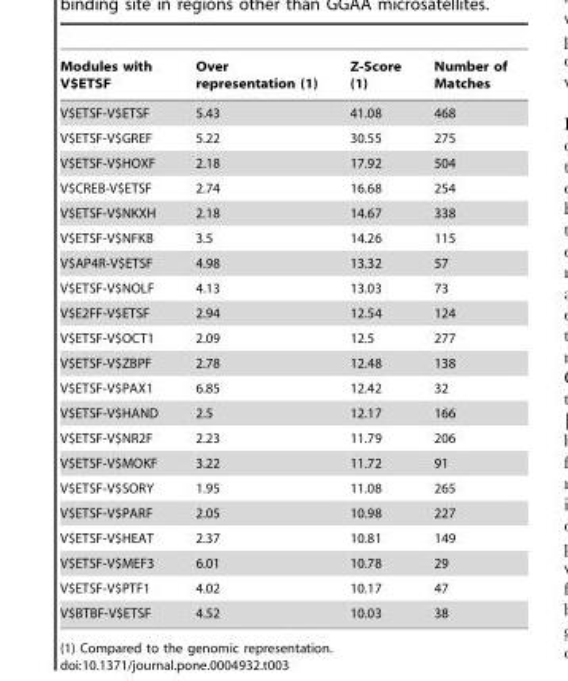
<table><thead><tr><td>Modules with V$ETSF</td><td>Over representation (1)</td><td>Z-Score (1)</td><td>Number of Matches</td></tr></thead><tbody><tr><td>V$ETSF-V$ETSF</td><td>5.43</td><td>41.08</td><td>468</td></tr><tr><td>V$ETSF-V$GREF</td><td>5.22</td><td>30.55</td><td>275</td></tr><tr><td>V$ETSF-V$HOXF</td><td>2.18</td><td>17.92</td><td>504</td></tr><tr><td>V$CREB-V$ETSF</td><td>2.74</td><td>16.68</td><td>254</td></tr><tr><td>V$ETSF-V$NKXH</td><td>2.18</td><td>14.67</td><td>338</td></tr><tr><td>V$ETSF-V$NFKB</td><td>3.5</td><td>14.26</td><td>115</td></tr><tr><td>V$AP4R-V$ETSF</td><td>4.98</td><td>13.32</td><td>57</td></tr><tr><td>V$ETSF-V$NOLF</td><td>4.13</td><td>13.03</td><td>73</td></tr><tr><td>V$E2FF-V$ETSF</td><td>2.94</td><td>12.54</td><td>124</td></tr><tr><td>V$ETSF-V$OCT1</td><td>2.09</td><td>12.5</td><td>277</td></tr><tr><td>V$ETSF-V$ZBPF</td><td>2.78</td><td>12.48</td><td>138</td></tr><tr><td>V$ETSF-V$PAX1</td><td>6.85</td><td>12.42</td><td>32</td></tr><tr><td>V$ETSF-V$HAND</td><td>2.5</td><td>12.17</td><td>166</td></tr><tr><td>V$ETSF-V$NR2F</td><td>2.23</td><td>11.79</td><td>206</td></tr><tr><td>V$ETSF-V$MOKF</td><td>3.22</td><td>11.72</td><td>91</td></tr><tr><td>V$ETSF-V$SORY</td><td>1.95</td><td>11.08</td><td>265</td></tr><tr><td>V$ETSF-V$PARF</td><td>2.05</td><td>10.98</td><td>227</td></tr><tr><td>V$ETSF-V$HEAT</td><td>2.37</td><td>10.81</td><td>149</td></tr><tr><td>V$ETSF-V$MEF3</td><td>6.01</td><td>10.78</td><td>29</td></tr><tr><td>V$ETSF-V$PTF1</td><td>4.02</td><td>10.17</td><td>47</td></tr><tr><td>V$BTBF-V$ETSF</td><td>4.52</td><td>10.03</td><td>38</td></tr></tbody></table>